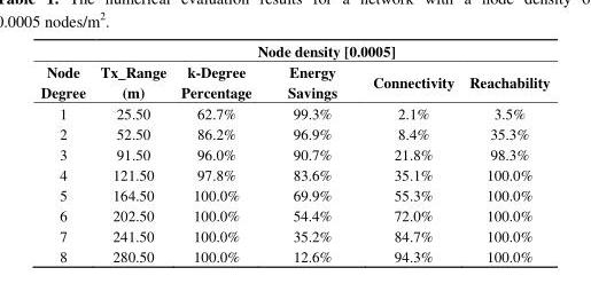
<table><thead><tr><td rowspan="2">Node Degree</td><td colspan="5">Node density [0.0005]</td></tr><tr><td>Tx_Range (m)</td><td>k-Degree Percentage</td><td>Energy Savings</td><td>Connectivity</td><td>Reachability</td></tr></thead><tbody><tr><td>1</td><td>25.50</td><td>62.7%</td><td>99.3%</td><td>2.1%</td><td>3.5%</td></tr><tr><td>2</td><td>52.50</td><td>86.2%</td><td>96.9%</td><td>8.4%</td><td>35.3%</td></tr><tr><td>3</td><td>91.50</td><td>96.0%</td><td>90.7%</td><td>21.8%</td><td>98.3%</td></tr><tr><td>4</td><td>121.50</td><td>97.8%</td><td>83.6%</td><td>35.1%</td><td>100.0%</td></tr><tr><td>5</td><td>164.50</td><td>100.0%</td><td>69.9%</td><td>55.3%</td><td>100.0%</td></tr><tr><td>6</td><td>202.50</td><td>100.0%</td><td>54.4%</td><td>72.0%</td><td>100.0%</td></tr><tr><td>7</td><td>241.50</td><td>100.0%</td><td>35.2%</td><td>84.7%</td><td>100.0%</td></tr><tr><td>8</td><td>280.50</td><td>100.0%</td><td>12.6%</td><td>94.3%</td><td>100.0%</td></tr></tbody></table>